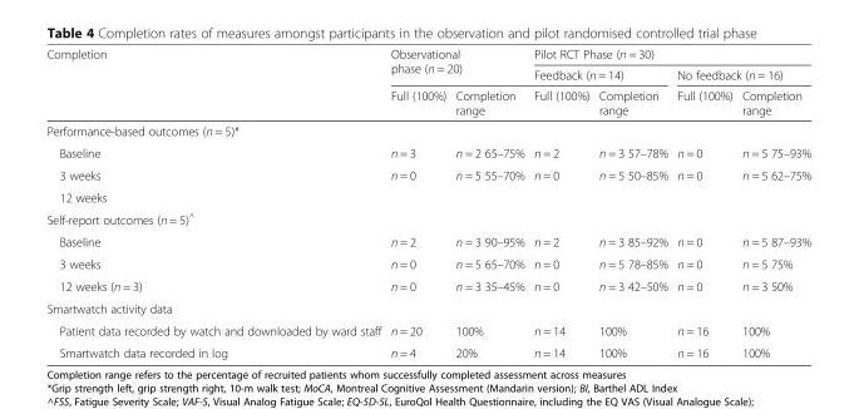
<table><thead><tr><td rowspan="3">Completion</td><td rowspan="2" colspan="2">Observational phase (n = 20)</td><td colspan="4">Pilot RCT Phase (n = 30)</td></tr><tr><td colspan="2">Feedback (n = 14)</td><td colspan="2">No feedback (n = 16)</td></tr><tr><td>Full (100%)</td><td>Completion range</td><td>Full (100%)</td><td>Completion range</td><td>Full (100%)</td><td>Completion range</td></tr></thead><tbody><tr><td colspan="7">Performance-based outcomes (n = 5)*</td></tr><tr><td>Baseline</td><td>n = 3</td><td>n = 2 65–75%</td><td>n = 2</td><td>n = 3 57–78%</td><td>n = 0</td><td>n = 5 75–93%</td></tr><tr><td>3 weeks</td><td>n = 0</td><td>n = 5 55–70%</td><td>n = 0</td><td>n = 5 50–85%</td><td>n = 0</td><td>n = 5 62–75%</td></tr><tr><td colspan="7">12 weeks</td></tr><tr><td colspan="7">Self-report outcomes (n = 5)<sup>^</sup></td></tr><tr><td>Baseline</td><td>n = 2</td><td>n = 3 90–95%</td><td>n = 2</td><td>n = 3 85–92%</td><td>n = 0</td><td>n = 5 87–93%</td></tr><tr><td>3 weeks</td><td>n = 0</td><td>n = 5 65–70%</td><td>n = 0</td><td>n = 5 78–85%</td><td>n = 0</td><td>n = 5 75%</td></tr><tr><td>12 weeks (n = 3)</td><td>n = 0</td><td>n = 3 35–45%</td><td>n = 0</td><td>n = 3 42–50%</td><td>n = 0</td><td>n = 3 50%</td></tr><tr><td colspan="7">Smartwatch activity data</td></tr><tr><td>Patient data recorded by watch and downloaded by ward staff</td><td>n = 20</td><td>100%</td><td>n = 14</td><td>100%</td><td>n = 16</td><td>100%</td></tr><tr><td>Smartwatch data recorded in log</td><td>n = 4</td><td>20%</td><td>n = 14</td><td>100%</td><td>n = 16</td><td>100%</td></tr></tbody></table>